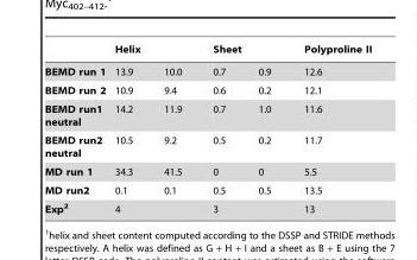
<table><thead><tr><td rowspan="2">BEMD run 1</td><td colspan="2">Helix</td><td colspan="2">Sheet</td><td rowspan="2">Polyproline II 12.6</td></tr><tr><td>13.9</td><td>10.0</td><td>0.7</td><td>0.9</td></tr></thead><tbody><tr><td>BEMD run 2</td><td>10.9</td><td>9.4</td><td>0.6</td><td>0.2</td><td>12.1</td></tr><tr><td>BEMD run1 neutral</td><td>14.2</td><td>11.9</td><td>0.7</td><td>1.0</td><td>11.6</td></tr><tr><td>BEMD run2 neutral</td><td>10.5</td><td>9.2</td><td>0.5</td><td>0.2</td><td>11.7</td></tr><tr><td>MD run 1</td><td>34.3</td><td>41.5</td><td>0</td><td>0</td><td>5.5</td></tr><tr><td>MD run2</td><td>0.1</td><td>0.1</td><td>0.5</td><td>0.5</td><td>13.5</td></tr><tr><td>Exp2</td><td colspan="2">4</td><td colspan="2">3</td><td>13</td></tr></tbody></table>